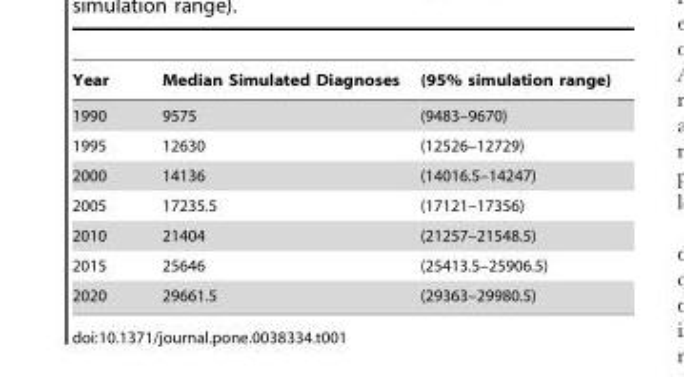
<table><thead><tr><td>Year</td><td>Median Simulated Diagnoses</td><td>(95% simulation range)</td></tr></thead><tbody><tr><td>1990</td><td>9575</td><td>(9483–9670)</td></tr><tr><td>1995</td><td>12630</td><td>(12526–12729)</td></tr><tr><td>2000</td><td>14136</td><td>(14016.5–14247)</td></tr><tr><td>2005</td><td>17235.5</td><td>(17121–17356)</td></tr><tr><td>2010</td><td>21404</td><td>(21257–21548.5)</td></tr><tr><td>2015</td><td>25646</td><td>(25413.5–25906.5)</td></tr><tr><td>2020</td><td>29661.5</td><td>(29363–29980.5)</td></tr></tbody></table>